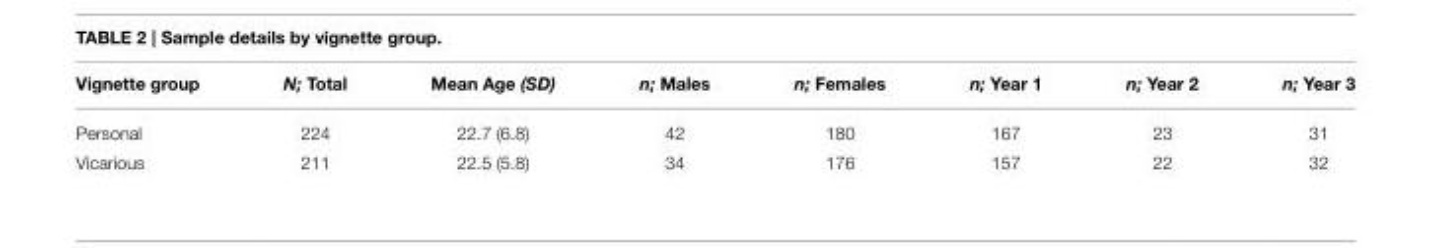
<table><thead><tr><td>Vignette group</td><td>N; Total</td><td>Mean Age (SD)</td><td>n; Males</td><td>n; Females</td><td>n; Year 1</td><td>n; Year 2</td><td>n; Year 3</td></tr></thead><tbody><tr><td>Personal</td><td>224</td><td>22.7 (6.8)</td><td>42</td><td>180</td><td>167</td><td>23</td><td>31</td></tr><tr><td>Vicarious</td><td>211</td><td>22.5 (5.8)</td><td>34</td><td>176</td><td>157</td><td>22</td><td>32</td></tr></tbody></table>